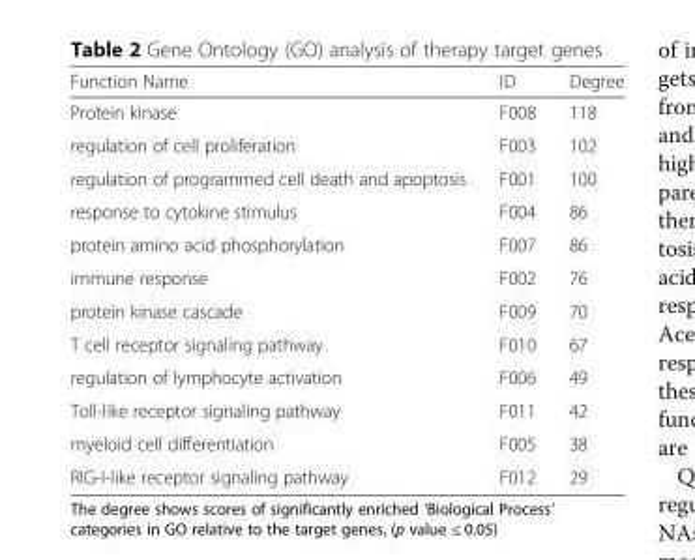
<table><thead><tr><td>Function Name</td><td>ID</td><td>Degree</td></tr></thead><tbody><tr><td>Protein kinase</td><td>F008</td><td>118</td></tr><tr><td>regulation of cell proliferation</td><td>F003</td><td>102</td></tr><tr><td>regulation of programmed cell death and apoptosis</td><td>F001</td><td>100</td></tr><tr><td>response to cytokine stimulus</td><td>F004</td><td>86</td></tr><tr><td>protein amino acid phosphorylation</td><td>F007</td><td>86</td></tr><tr><td>immune response</td><td>F002</td><td>76</td></tr><tr><td>protein kinase cascade</td><td>F009</td><td>70</td></tr><tr><td>T cell receptor signaling pathway</td><td>F010</td><td>67</td></tr><tr><td>regulation of lymphocyte activation</td><td>F006</td><td>49</td></tr><tr><td>Toll-like receptor signaling pathway</td><td>F011</td><td>42</td></tr><tr><td>myeloid cell differentiation</td><td>F005</td><td>38</td></tr><tr><td>RIG-I-like receptor signaling pathway</td><td>F012</td><td>29</td></tr></tbody></table>